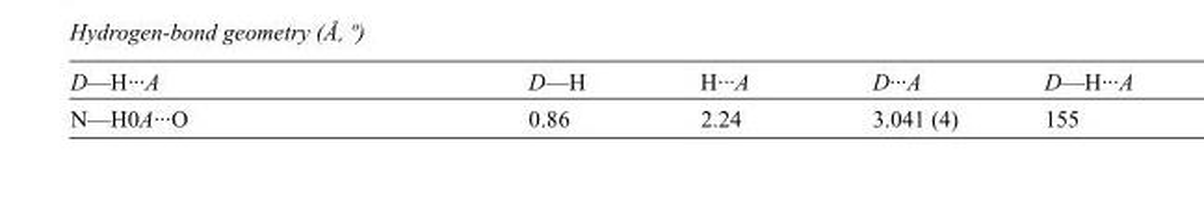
<table><tbody><tr><td>D—H···A</td><td>D—H</td><td>H···A</td><td>D···A</td><td>D—H···A</td></tr><tr><td>N—H0A···O</td><td>0.86</td><td>2.24</td><td>3.041 (4)</td><td>155</td></tr></tbody></table>